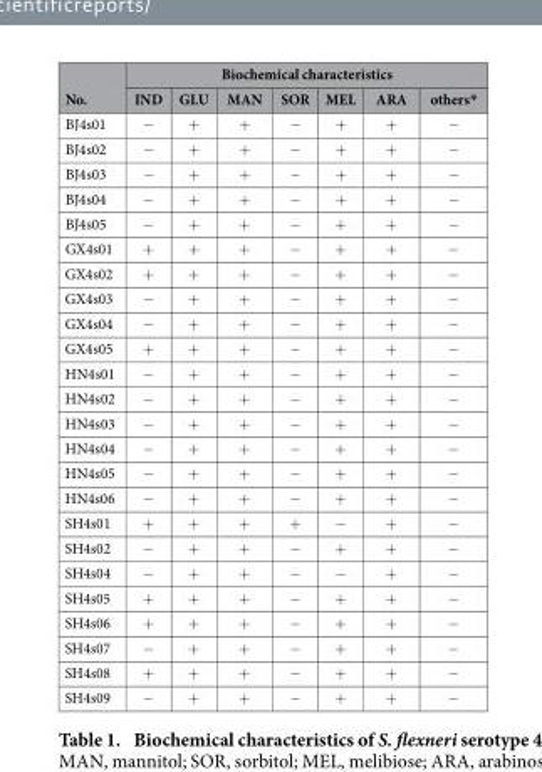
<table><thead><tr><td rowspan="2">No.</td><td colspan="7">Biochemical characteristics</td></tr><tr><td>IND</td><td>GLU</td><td>MAN</td><td>SOR</td><td>MEL</td><td>ARA</td><td>others*</td></tr></thead><tbody><tr><td>BJ4s01</td><td>−</td><td>+</td><td>+</td><td>−</td><td>+</td><td>+</td><td>−</td></tr><tr><td>BJ4s02</td><td>−</td><td>+</td><td>+</td><td>−</td><td>+</td><td>+</td><td>−</td></tr><tr><td>BJ4s03</td><td>−</td><td>+</td><td>+</td><td>−</td><td>+</td><td>+</td><td>−</td></tr><tr><td>BJ4s04</td><td>−</td><td>+</td><td>+</td><td>−</td><td>+</td><td>+</td><td>−</td></tr><tr><td>BJ4s05</td><td>−</td><td>+</td><td>+</td><td>−</td><td>+</td><td>+</td><td>−</td></tr><tr><td>GX4s01</td><td>+</td><td>+</td><td>+</td><td>−</td><td>+</td><td>+</td><td>−</td></tr><tr><td>GX4s02</td><td>+</td><td>+</td><td>+</td><td>−</td><td>+</td><td>+</td><td>−</td></tr><tr><td>GX4s03</td><td>−</td><td>+</td><td>+</td><td>−</td><td>+</td><td>+</td><td>−</td></tr><tr><td>GX4s04</td><td>−</td><td>+</td><td>+</td><td>−</td><td>+</td><td>+</td><td>−</td></tr><tr><td>GX4s05</td><td>+</td><td>+</td><td>+</td><td>−</td><td>+</td><td>+</td><td>−</td></tr><tr><td>HN4s01</td><td>−</td><td>+</td><td>+</td><td>−</td><td>+</td><td>+</td><td>−</td></tr><tr><td>HN4s02</td><td>−</td><td>+</td><td>+</td><td>−</td><td>+</td><td>+</td><td>−</td></tr><tr><td>HN4s03</td><td>−</td><td>+</td><td>+</td><td>−</td><td>+</td><td>+</td><td>−</td></tr><tr><td>HN4s04</td><td>−</td><td>+</td><td>+</td><td>−</td><td>+</td><td>+</td><td>−</td></tr><tr><td>HN4s05</td><td>−</td><td>+</td><td>+</td><td>−</td><td>+</td><td>+</td><td>−</td></tr><tr><td>HN4s06</td><td>−</td><td>+</td><td>+</td><td>−</td><td>+</td><td>+</td><td>−</td></tr><tr><td>SH4s01</td><td>+</td><td>+</td><td>+</td><td>+</td><td>−</td><td>+</td><td>−</td></tr><tr><td>SH4s02</td><td>−</td><td>+</td><td>+</td><td>−</td><td>+</td><td>+</td><td>−</td></tr><tr><td>SH4s04</td><td>−</td><td>+</td><td>+</td><td>−</td><td>−</td><td>+</td><td>−</td></tr><tr><td>SH4s05</td><td>+</td><td>+</td><td>+</td><td>−</td><td>+</td><td>+</td><td>−</td></tr><tr><td>SH4s06</td><td>+</td><td>+</td><td>+</td><td>−</td><td>+</td><td>+</td><td>−</td></tr><tr><td>SH4s07</td><td>−</td><td>+</td><td>+</td><td>−</td><td>+</td><td>+</td><td>−</td></tr><tr><td>SH4s08</td><td>+</td><td>+</td><td>+</td><td>−</td><td>+</td><td>+</td><td>−</td></tr><tr><td>SH4s09</td><td>−</td><td>+</td><td>+</td><td>−</td><td>+</td><td>+</td><td>−</td></tr></tbody></table>